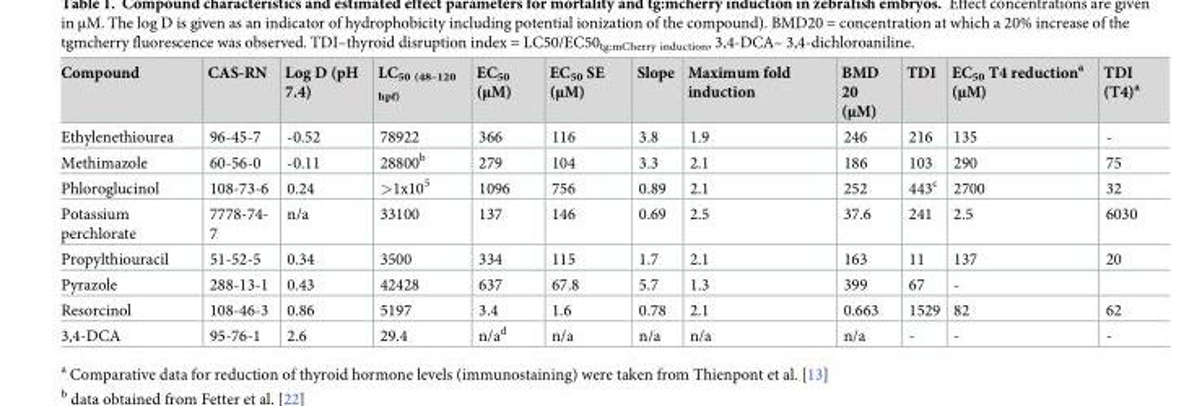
<table><thead><tr><td>Compound</td><td>CAS-RN</td><td>Log D (pH 7.4)</td><td>LC<sub>50 (48–120 hpf)</sub></td><td>EC<sub>50</sub> (μM)</td><td>EC<sub>50</sub> SE (μM)</td><td>Slope</td><td>Maximum fold induction</td><td>BMD 20 (μM)</td><td>TDI</td><td>EC<sub>50</sub> T4 reduction<sup>a</sup> (μM)</td><td>TDI (T4)<sup>a</sup></td></tr></thead><tbody><tr><td>Ethylenethiourea</td><td>96-45-7</td><td>-0.52</td><td>78922</td><td>366</td><td>116</td><td>3.8</td><td>1.9</td><td>246</td><td>216</td><td>135</td><td>-</td></tr><tr><td>Methimazole</td><td>60-56-0</td><td>-0.11</td><td>28800<sup>b</sup></td><td>279</td><td>104</td><td>3.3</td><td>2.1</td><td>186</td><td>103</td><td>290</td><td>75</td></tr><tr><td>Phloroglucinol</td><td>108-73-6</td><td>0.24</td><td>&gt;1x10<sup>5</sup></td><td>1096</td><td>756</td><td>0.89</td><td>2.1</td><td>252</td><td>443<sup>c</sup></td><td>2700</td><td>32</td></tr><tr><td>Potassium perchlorate</td><td>7778-74- 7</td><td>n/a</td><td>33100</td><td>137</td><td>146</td><td>0.69</td><td>2.5</td><td>37.6</td><td>241</td><td>2.5</td><td>6030</td></tr><tr><td>Propylthiouracil</td><td>51-52-5</td><td>0.34</td><td>3500</td><td>334</td><td>115</td><td>1.7</td><td>2.1</td><td>163</td><td>11</td><td>137</td><td>20</td></tr><tr><td>Pyrazole</td><td>288-13-1</td><td>0.43</td><td>42428</td><td>637</td><td>67.8</td><td>5.7</td><td>1.3</td><td>399</td><td>67</td><td>-</td><td></td></tr><tr><td>Resorcinol</td><td>108-46-3</td><td>0.86</td><td>5197</td><td>3.4</td><td>1.6</td><td>0.78</td><td>2.1</td><td>0.663</td><td>1529</td><td>82</td><td>62</td></tr><tr><td>3,4-DCA</td><td>95-76-1</td><td>2.6</td><td>29.4</td><td>n/a<sup>d</sup></td><td>n/a</td><td>n/a</td><td>n/a</td><td>n/a</td><td>-</td><td>-</td><td>-</td></tr></tbody></table>